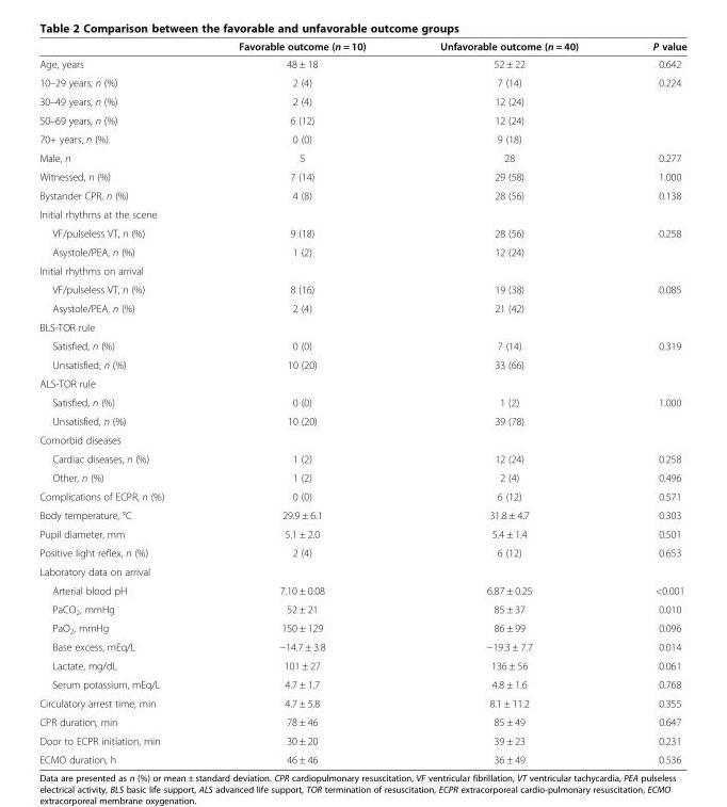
<table><thead><tr><td></td><td>Favorable outcome (n = 10)</td><td>Unfavorable outcome (n = 40)</td><td>P value</td></tr></thead><tbody><tr><td>Age, years</td><td>48 ± 18</td><td>52 ± 22</td><td>0.642</td></tr><tr><td>10–29 years, n (%)</td><td>2 (4)</td><td>7 (14)</td><td>0.224</td></tr><tr><td>30–49 years, n (%)</td><td>2 (4)</td><td>12 (24)</td><td></td></tr><tr><td>50–69 years, n (%)</td><td>6 (12)</td><td>12 (24)</td><td></td></tr><tr><td>70+ years, n (%)</td><td>0 (0)</td><td>9 (18)</td><td></td></tr><tr><td>Male, n</td><td>5</td><td>28</td><td>0.277</td></tr><tr><td>Witnessed, n (%)</td><td>7 (14)</td><td>29 (58)</td><td>1.000</td></tr><tr><td>Bystander CPR, n (%)</td><td>4 (8)</td><td>28 (56)</td><td>0.138</td></tr><tr><td colspan="4">Initial rhythms at the scene</td></tr><tr><td>VF/pulseless VT, n (%)</td><td>9 (18)</td><td>28 (56)</td><td>0.258</td></tr><tr><td>Asystole/PEA, n (%)</td><td>1 (2)</td><td>12 (24)</td><td></td></tr><tr><td colspan="4">Initial rhythms on arrival</td></tr><tr><td>VF/pulseless VT, n (%)</td><td>8 (16)</td><td>19 (38)</td><td>0.085</td></tr><tr><td>Asystole/PEA, n (%)</td><td>2 (4)</td><td>21 (42)</td><td></td></tr><tr><td colspan="4">BLS-TOR rule</td></tr><tr><td>Satisfied, n (%)</td><td>0 (0)</td><td>7 (14)</td><td>0.319</td></tr><tr><td>Unsatisfied, n (%)</td><td>10 (20)</td><td>33 (66)</td><td></td></tr><tr><td colspan="4">ALS-TOR rule</td></tr><tr><td>Satisfied, n (%)</td><td>0 (0)</td><td>1 (2)</td><td>1.000</td></tr><tr><td>Unsatisfied, n (%)</td><td>10 (20)</td><td>39 (78)</td><td></td></tr><tr><td colspan="4">Comorbid diseases</td></tr><tr><td>Cardiac diseases, n (%)</td><td>1 (2)</td><td>12 (24)</td><td>0.258</td></tr><tr><td>Other, n (%)</td><td>1 (2)</td><td>2 (4)</td><td>0.496</td></tr><tr><td>Complications of ECPR, n (%)</td><td>0 (0)</td><td>6 (12)</td><td>0.571</td></tr><tr><td>Body temperature, °C</td><td>29.9 ± 6.1</td><td>31.8 ± 4.7</td><td>0.303</td></tr><tr><td>Pupil diameter, mm</td><td>5.1 ± 2.0</td><td>5.4 ± 1.4</td><td>0.501</td></tr><tr><td>Positive light reflex, n (%)</td><td>2 (4)</td><td>6 (12)</td><td>0.653</td></tr><tr><td colspan="4">Laboratory data on arrival</td></tr><tr><td>Arterial blood pH</td><td>7.10 ± 0.08</td><td>6.87 ± 0.25</td><td>&lt;0.001</td></tr><tr><td>PaCO<sub>2</sub>, mmHg</td><td>52 ± 21</td><td>85 ± 37</td><td>0.010</td></tr><tr><td>PaO<sub>2</sub>, mmHg</td><td>150 ± 129</td><td>86 ± 99</td><td>0.096</td></tr><tr><td>Base excess, mEq/L</td><td>−14.7 ± 3.8</td><td>−19.3 ± 7.7</td><td>0.014</td></tr><tr><td>Lactate, mg/dL</td><td>101 ± 27</td><td>136 ± 56</td><td>0.061</td></tr><tr><td>Serum potassium, mEq/L</td><td>4.7 ± 1.7</td><td>4.8 ± 1.6</td><td>0.768</td></tr><tr><td>Circulatory arrest time, min</td><td>4.7 ± 5.8</td><td>8.1 ± 11.2</td><td>0.355</td></tr><tr><td>CPR duration, min</td><td>78 ± 46</td><td>85 ± 49</td><td>0.647</td></tr><tr><td>Door to ECPR initiation, min</td><td>30 ± 20</td><td>39 ± 23</td><td>0.231</td></tr><tr><td>ECMO duration, h</td><td>46 ± 46</td><td>36 ± 49</td><td>0.536</td></tr></tbody></table>